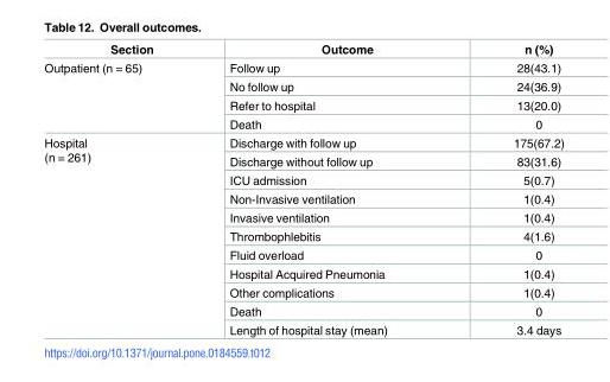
<table><thead><tr><td>Section</td><td>Outcome</td><td>n (%)</td></tr></thead><tbody><tr><td rowspan="4">Outpatient (n = 65)</td><td>Follow up</td><td>28(43.1)</td></tr><tr><td>No follow up</td><td>24(36.9)</td></tr><tr><td>Refer to hospital</td><td>13(20.0)</td></tr><tr><td>Death</td><td>0</td></tr><tr><td rowspan="11">Hospital (n = 261)</td><td>Discharge with follow up</td><td>175(67.2)</td></tr><tr><td>Discharge without follow up</td><td>83(31.6)</td></tr><tr><td>ICU admission</td><td>5(0.7)</td></tr><tr><td>Non-Invasive ventilation</td><td>1(0.4)</td></tr><tr><td>Invasive ventilation</td><td>1(0.4)</td></tr><tr><td>Thrombophlebitis</td><td>4(1.6)</td></tr><tr><td>Fluid overload</td><td>0</td></tr><tr><td>Hospital Acquired Pneumonia</td><td>1(0.4)</td></tr><tr><td>Other complications</td><td>1(0.4)</td></tr><tr><td>Death</td><td>0</td></tr><tr><td>Length of hospital stay (mean)</td><td>3.4 days</td></tr></tbody></table>